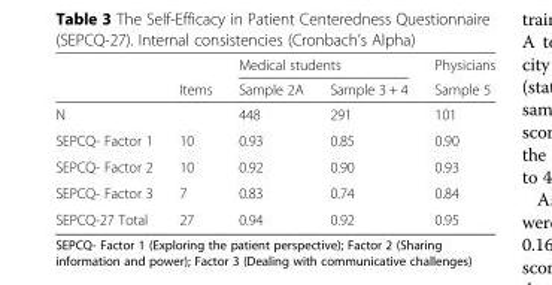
<table><thead><tr><td rowspan="2"></td><td rowspan="2">Items</td><td colspan="2">Medical students</td><td rowspan="2">Physicians Sample 5</td></tr><tr><td>Sample 2A</td><td>Sample 3 + 4</td></tr></thead><tbody><tr><td>N</td><td></td><td>448</td><td>291</td><td>101</td></tr><tr><td>SEPCQ- Factor 1</td><td>10</td><td>0.93</td><td>0.85</td><td>0.90</td></tr><tr><td>SEPCQ- Factor 2</td><td>10</td><td>0.92</td><td>0.90</td><td>0.93</td></tr><tr><td>SEPCQ- Factor 3</td><td>7</td><td>0.83</td><td>0.74</td><td>0.84</td></tr><tr><td>SEPCQ-27 Total</td><td>27</td><td>0.94</td><td>0.92</td><td>0.95</td></tr></tbody></table>